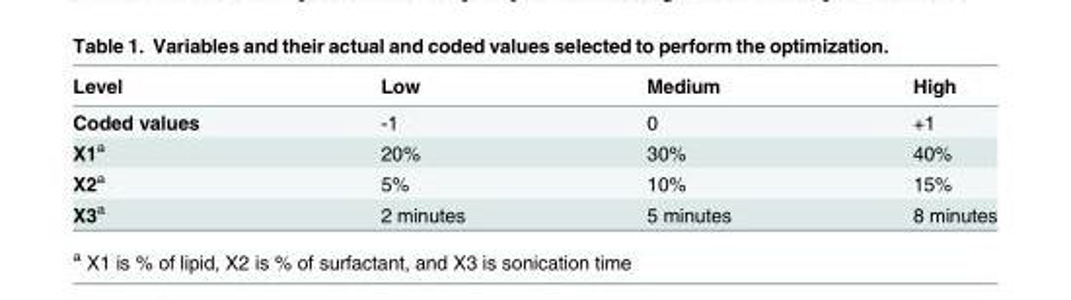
<table><thead><tr><td>Level</td><td>Low</td><td>Medium</td><td>High</td></tr></thead><tbody><tr><td>Coded values</td><td>-1</td><td>0</td><td>+1</td></tr><tr><td>X1<sup>a</sup></td><td>20%</td><td>30%</td><td>40%</td></tr><tr><td>X2<sup>a</sup></td><td>5%</td><td>10%</td><td>15%</td></tr><tr><td>X3<sup>a</sup></td><td>2 minutes</td><td>5 minutes</td><td>8 minutes</td></tr></tbody></table>